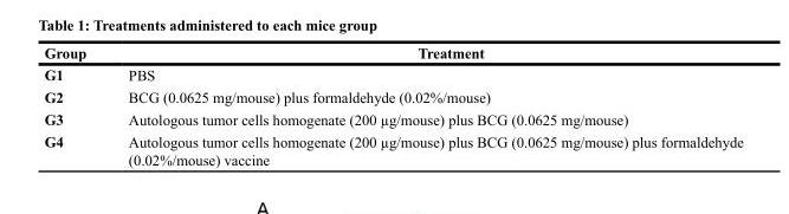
<table><thead><tr><td>Group</td><td>Treatment</td></tr></thead><tbody><tr><td>G1</td><td>PBS</td></tr><tr><td>G2</td><td>BCG (0.0625 mg/mouse) plus formaldehyde (0.02%/mouse)</td></tr><tr><td>G3</td><td>Autologous tumor cells homogenate (200 µg/mouse) plus BCG (0.0625 mg/mouse)</td></tr><tr><td>G4</td><td>Autologous tumor cells homogenate (200 µg/mouse) plus BCG (0.0625 mg/mouse) plus formaldehyde (0.02%/mouse) vaccine</td></tr></tbody></table>